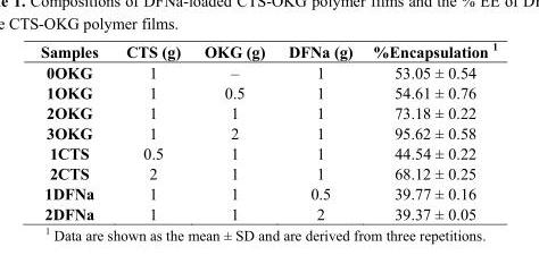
<table><thead><tr><td>Samples</td><td>CTS (g)</td><td>OKG (g)</td><td>DFNa (g)</td><td>%Encapsulation 1</td></tr></thead><tbody><tr><td>0OKG</td><td>1</td><td>–</td><td>1</td><td>53.05 ± 0.54</td></tr><tr><td>1OKG</td><td>1</td><td>0.5</td><td>1</td><td>54.61 ± 0.76</td></tr><tr><td>2OKG</td><td>1</td><td>1</td><td>1</td><td>73.18 ± 0.22</td></tr><tr><td>3OKG</td><td>1</td><td>2</td><td>1</td><td>95.62 ± 0.58</td></tr><tr><td>1CTS</td><td>0.5</td><td>1</td><td>1</td><td>44.54 ± 0.22</td></tr><tr><td>2CTS</td><td>2</td><td>1</td><td>1</td><td>68.12 ± 0.25</td></tr><tr><td>1DFNa</td><td>1</td><td>1</td><td>0.5</td><td>39.77 ± 0.16</td></tr><tr><td>2DFNa</td><td>1</td><td>1</td><td>2</td><td>39.37 ± 0.05</td></tr></tbody></table>